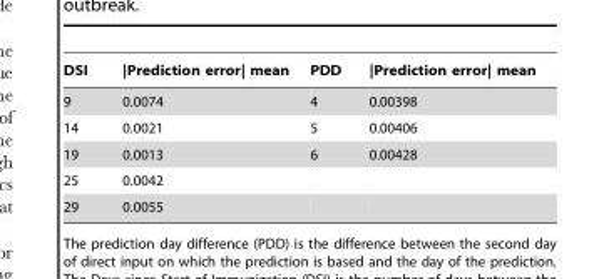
<table><thead><tr><td>DSI</td><td>|Prediction error| mean</td><td>PDD</td><td>|Prediction error| mean</td></tr></thead><tbody><tr><td>9</td><td>0.0074</td><td>4</td><td>0.00398</td></tr><tr><td>14</td><td>0.0021</td><td>5</td><td>0.00406</td></tr><tr><td>19</td><td>0.0013</td><td>6</td><td>0.00428</td></tr><tr><td>25</td><td>0.0042</td><td></td><td></td></tr><tr><td>29</td><td>0.0055</td><td></td><td></td></tr></tbody></table>